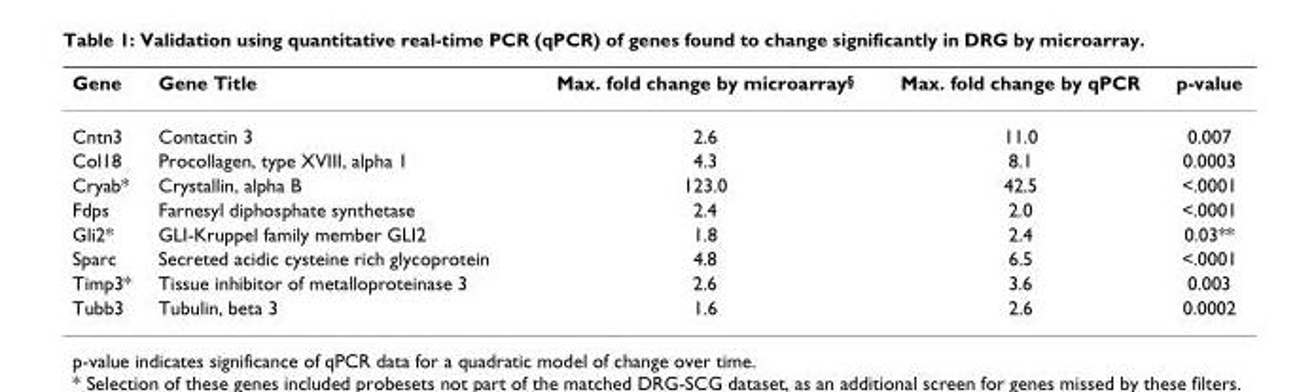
<table><thead><tr><td>Gene</td><td>Gene Title</td><td>Max. fold change by microarray<sup>§</sup></td><td>Max. fold change by qPCR</td><td>p-value</td></tr></thead><tbody><tr><td>Cntn3</td><td>Contactin 3</td><td>2.6</td><td>11.0</td><td>0.007</td></tr><tr><td>Col18</td><td>Procollagen, type XVIII, alpha 1</td><td>4.3</td><td>8.1</td><td>0.0003</td></tr><tr><td>Cryab*</td><td>Crystallin, alpha B</td><td>123.0</td><td>42.5</td><td>&lt;.0001</td></tr><tr><td>Fdps</td><td>Farnesyl diphosphate synthetase</td><td>2.4</td><td>2.0</td><td>&lt;.0001</td></tr><tr><td>Gli2*</td><td>GLI-Kruppel family member GLI2</td><td>1.8</td><td>2.4</td><td>0.03**</td></tr><tr><td>Sparc</td><td>Secreted acidic cysteine rich glycoprotein</td><td>4.8</td><td>6.5</td><td>&lt;.0001</td></tr><tr><td>Timp3*</td><td>Tissue inhibitor of metalloproteinase 3</td><td>2.6</td><td>3.6</td><td>0.003</td></tr><tr><td>Tubb3</td><td>Tubulin, beta 3</td><td>1.6</td><td>2.6</td><td>0.0002</td></tr></tbody></table>